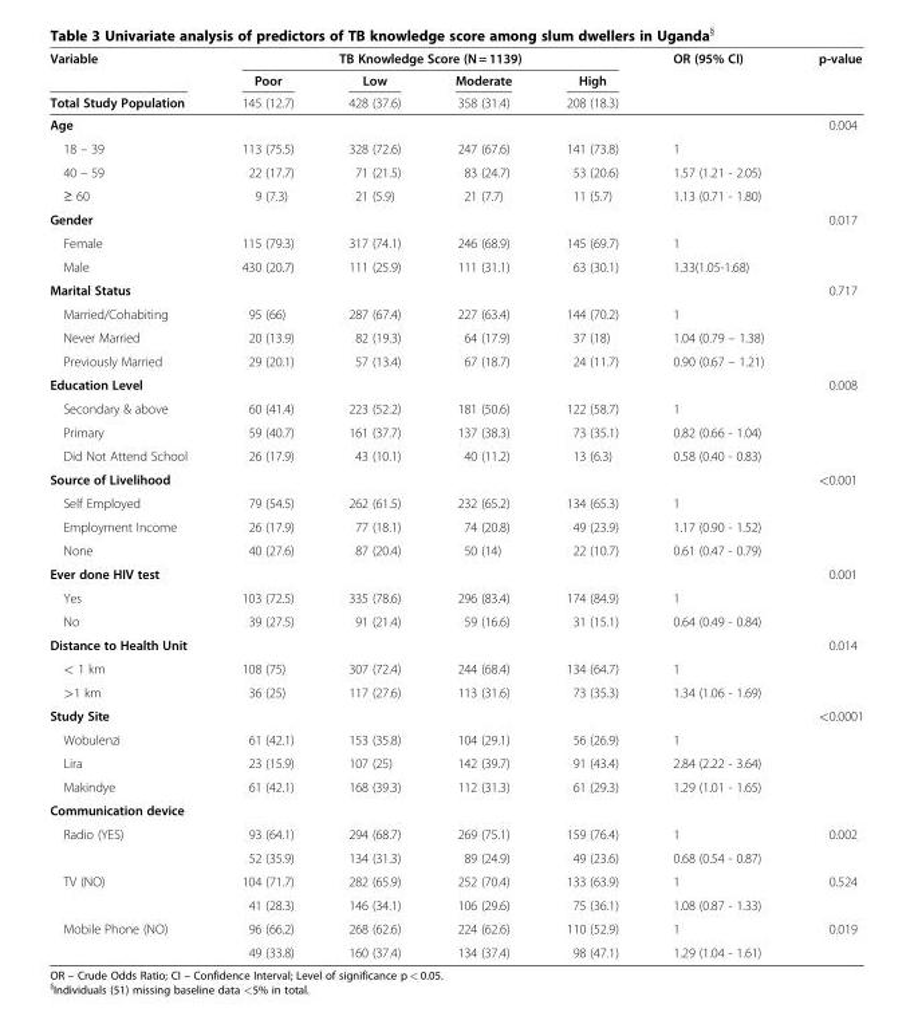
<table><thead><tr><td rowspan="3">Variable Total Study Population</td><td colspan="4">TB Knowledge Score (N = 1139)</td><td rowspan="3">OR (95% CI)</td><td rowspan="3">p-value</td></tr><tr><td rowspan="2">Poor 145 (12.7)</td><td rowspan="2">Low 428 (37.6)</td><td rowspan="2">Moderate 358 (31.4)</td><td rowspan="2">High 208 (18.3)</td></tr><tr></tr></thead><tbody><tr><td>Age</td><td></td><td></td><td></td><td></td><td></td><td>0.004</td></tr><tr><td>18 – 39</td><td>113 (75.5)</td><td>328 (72.6)</td><td>247 (67.6)</td><td>141 (73.8)</td><td>1</td><td rowspan="3"></td></tr><tr><td>40 – 59</td><td>22 (17.7)</td><td>71 (21.5)</td><td>83 (24.7)</td><td>53 (20.6)</td><td>1.57 (1.21 - 2.05)</td></tr><tr><td>≥ 60</td><td>9 (7.3)</td><td>21 (5.9)</td><td>21 (7.7)</td><td>11 (5.7)</td><td>1.13 (0.71 - 1.80)</td></tr><tr><td>Gender</td><td></td><td></td><td></td><td></td><td></td><td>0.017</td></tr><tr><td>Female</td><td>115 (79.3)</td><td>317 (74.1)</td><td>246 (68.9)</td><td>145 (69.7)</td><td>1</td><td rowspan="2"></td></tr><tr><td>Male</td><td>430 (20.7)</td><td>111 (25.9)</td><td>111 (31.1)</td><td>63 (30.1)</td><td>1.33(1.05-1.68)</td></tr><tr><td colspan="7">Marital Status 0.717</td></tr><tr><td>Married/Cohabiting</td><td>95 (66)</td><td>287 (67.4)</td><td>227 (63.4)</td><td>144 (70.2)</td><td>1</td><td></td></tr><tr><td>Never Married</td><td>20 (13.9)</td><td>82 (19.3)</td><td>64 (17.9)</td><td>37 (18)</td><td>1.04 (0.79 – 1.38)</td><td></td></tr><tr><td>Previously Married</td><td>29 (20.1)</td><td>57 (13.4)</td><td>67 (18.7)</td><td>24 (11.7)</td><td>0.90 (0.67 – 1.21)</td><td></td></tr><tr><td>Education Level</td><td></td><td></td><td></td><td></td><td></td><td>0.008</td></tr><tr><td>Secondary &amp; above</td><td>60 (41.4)</td><td>223 (52.2)</td><td>181 (50.6)</td><td>122 (58.7)</td><td>1</td><td rowspan="3"></td></tr><tr><td>Primary</td><td>59 (40.7)</td><td>161 (37.7)</td><td>137 (38.3)</td><td>73 (35.1)</td><td>0.82 (0.66 - 1.04)</td></tr><tr><td>Did Not Attend School</td><td>26 (17.9)</td><td>43 (10.1)</td><td>40 (11.2)</td><td>13 (6.3)</td><td>0.58 (0.40 - 0.83)</td></tr><tr><td colspan="6">Source of Livelihood</td><td rowspan="4">&lt;0.001</td></tr><tr><td>Self Employed</td><td>79 (54.5)</td><td>262 (61.5)</td><td>232 (65.2)</td><td>134 (65.3)</td><td>1</td></tr><tr><td>Employment Income</td><td>26 (17.9)</td><td>77 (18.1)</td><td>74 (20.8)</td><td>49 (23.9)</td><td>1.17 (0.90 - 1.52)</td></tr><tr><td>None</td><td>40 (27.6)</td><td>87 (20.4)</td><td>50 (14)</td><td>22 (10.7)</td><td>0.61 (0.47 - 0.79)</td></tr><tr><td colspan="7">Ever done HIV test 0.001</td></tr><tr><td>Yes</td><td>103 (72.5)</td><td>335 (78.6)</td><td>296 (83.4)</td><td>174 (84.9)</td><td>1</td><td></td></tr><tr><td>No</td><td>39 (27.5)</td><td>91 (21.4)</td><td>59 (16.6)</td><td>31 (15.1)</td><td>0.64 (0.49 - 0.84)</td><td></td></tr><tr><td>Distance to Health Unit</td><td></td><td></td><td></td><td></td><td></td><td>0.014</td></tr><tr><td>&lt; 1 km</td><td>108 (75)</td><td>307 (72.4)</td><td>244 (68.4)</td><td>134 (64.7)</td><td>1</td><td rowspan="2"></td></tr><tr><td>&gt;1 km</td><td>36 (25)</td><td>117 (27.6)</td><td>113 (31.6)</td><td>73 (35.3)</td><td>1.34 (1.06 - 1.69)</td></tr><tr><td>Study Site</td><td></td><td></td><td></td><td></td><td></td><td>&lt;0.0001</td></tr><tr><td>Wobulenzi</td><td>61 (42.1)</td><td>153 (35.8)</td><td>104 (29.1)</td><td>56 (26.9)</td><td>1</td><td rowspan="3"></td></tr><tr><td>Lira</td><td>23 (15.9)</td><td>107 (25)</td><td>142 (39.7)</td><td>91 (43.4)</td><td>2.84 (2.22 - 3.64)</td></tr><tr><td>Makindye</td><td>61 (42.1)</td><td>168 (39.3)</td><td>112 (31.3)</td><td>61 (29.3)</td><td>1.29 (1.01 - 1.65)</td></tr><tr><td colspan="7">Communication device</td></tr><tr><td rowspan="2">Radio (YES)</td><td>93 (64.1)</td><td>294 (68.7)</td><td>269 (75.1)</td><td>159 (76.4)</td><td>1</td><td>0.002</td></tr><tr><td>52 (35.9)</td><td>134 (31.3)</td><td>89 (24.9)</td><td>49 (23.6)</td><td>0.68 (0.54 - 0.87)</td><td></td></tr><tr><td rowspan="2">TV (NO)</td><td>104 (71.7)</td><td>282 (65.9)</td><td>252 (70.4)</td><td>133 (63.9)</td><td>1</td><td>0.524</td></tr><tr><td>41 (28.3)</td><td>146 (34.1)</td><td>106 (29.6)</td><td>75 (36.1)</td><td>1.08 (0.87 - 1.33)</td><td></td></tr><tr><td rowspan="2">Mobile Phone (NO)</td><td>96 (66.2)</td><td>268 (62.6)</td><td>224 (62.6)</td><td>110 (52.9)</td><td>1</td><td>0.019</td></tr><tr><td>49 (33.8)</td><td>160 (37.4)</td><td>134 (37.4)</td><td>98 (47.1)</td><td>1.29 (1.04 - 1.61)</td><td></td></tr></tbody></table>